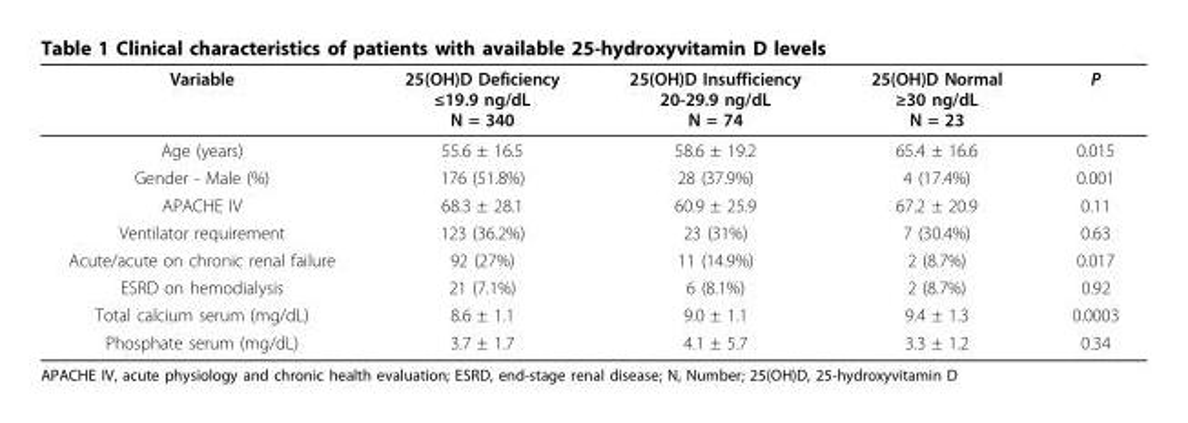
<table><thead><tr><td>Variable</td><td>25(OH)D Deficiency ≤19.9 ng/dL N = 340</td><td>25(OH)D Insufficiency 20-29.9 ng/dL N = 74</td><td>25(OH)D Normal ≥30 ng/dL N = 23</td><td>P</td></tr></thead><tbody><tr><td>Age (years)</td><td>55.6 ± 16.5</td><td>58.6 ± 19.2</td><td>65.4 ± 16.6</td><td>0.015</td></tr><tr><td>Gender - Male (%)</td><td>176 (51.8%)</td><td>28 (37.9%)</td><td>4 (17.4%)</td><td>0.001</td></tr><tr><td>APACHE IV</td><td>68.3 ± 28.1</td><td>60.9 ± 25.9</td><td>67.2 ± 20.9</td><td>0.11</td></tr><tr><td>Ventilator requirement</td><td>123 (36.2%)</td><td>23 (31%)</td><td>7 (30.4%)</td><td>0.63</td></tr><tr><td>Acute/acute on chronic renal failure</td><td>92 (27%)</td><td>11 (14.9%)</td><td>2 (8.7%)</td><td>0.017</td></tr><tr><td>ESRD on hemodialysis</td><td>21 (7.1%)</td><td>6 (8.1%)</td><td>2 (8.7%)</td><td>0.92</td></tr><tr><td>Total calcium serum (mg/dL)</td><td>8.6 ± 1.1</td><td>9.0 ± 1.1</td><td>9.4 ± 1.3</td><td>0.0003</td></tr><tr><td>Phosphate serum (mg/dL)</td><td>3.7 ± 1.7</td><td>4.1 ± 5.7</td><td>3.3 ± 1.2</td><td>0.34</td></tr></tbody></table>